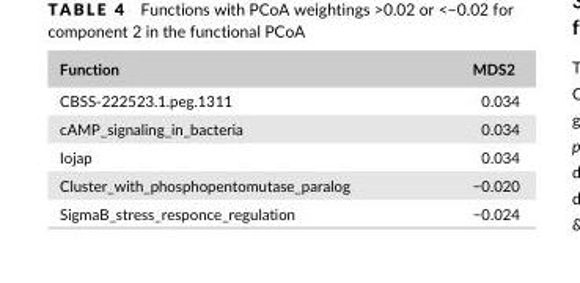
<table><thead><tr><td>Function</td><td>MDS2</td></tr></thead><tbody><tr><td>CBSS- 222523.1.peg.1311</td><td>0.034</td></tr><tr><td>cAMP_signaling_in_bacteria</td><td>0.034</td></tr><tr><td>Iojap</td><td>0.034</td></tr><tr><td>Cluster_with_phosphopentomutase_paralog</td><td>−0.020</td></tr><tr><td>SigmaB_stress_responce_regulation</td><td>−0.024</td></tr></tbody></table>